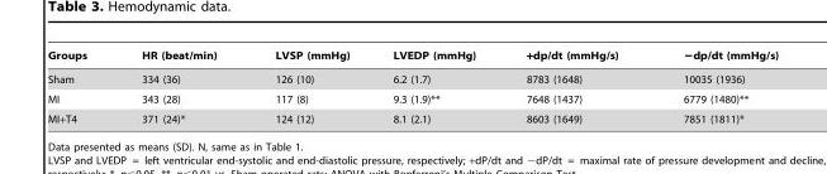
<table><thead><tr><td>Groups</td><td>HR (beat/min)</td><td>LVSP (mmHg)</td><td>LVEDP (mmHg)</td><td>+dp/dt (mmHg/s)</td><td>−dp/dt (mmHg/s)</td></tr></thead><tbody><tr><td>Sham</td><td>334 (36)</td><td>126 (10)</td><td>6.2 (1.7)</td><td>8783 (1648)</td><td>10035 (1936)</td></tr><tr><td>MI</td><td>343 (28)</td><td>117 (8)</td><td>9.3 (1.9)**</td><td>7648 (1437)</td><td>6779 (1480)**</td></tr><tr><td>MI+T4</td><td>371 (24)*</td><td>124 (12)</td><td>8.1 (2.1)</td><td>8603 (1649)</td><td>7851 (1811)*</td></tr></tbody></table>